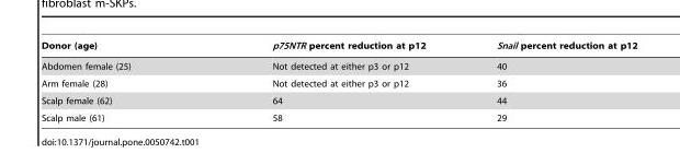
<table><thead><tr><td>Donor (age)</td><td>p75NTR percent reduction at p12</td><td>Snail percent reduction at p12</td></tr></thead><tbody><tr><td>Abdomen female (25)</td><td>Not detected at either p3 or p12</td><td>40</td></tr><tr><td>Arm female (28)</td><td>Not detected at either p3 or p12</td><td>36</td></tr><tr><td>Scalp female (62)</td><td>64</td><td>44</td></tr><tr><td>Scalp male (61)</td><td>58</td><td>29</td></tr></tbody></table>